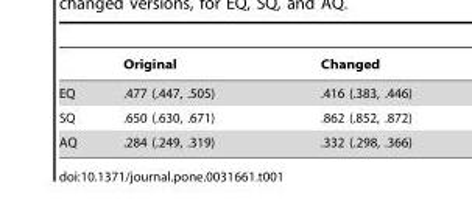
<table><thead><tr><td></td><td>Original</td><td>Changed</td></tr></thead><tbody><tr><td>EQ</td><td>.477 (.447, .505)</td><td>.416 (.383, .446)</td></tr><tr><td>SQ</td><td>.650 (.630, .671)</td><td>.862 (.852, .872)</td></tr><tr><td>AQ</td><td>.284 (.249, .319)</td><td>.332 (.298, .366)</td></tr></tbody></table>